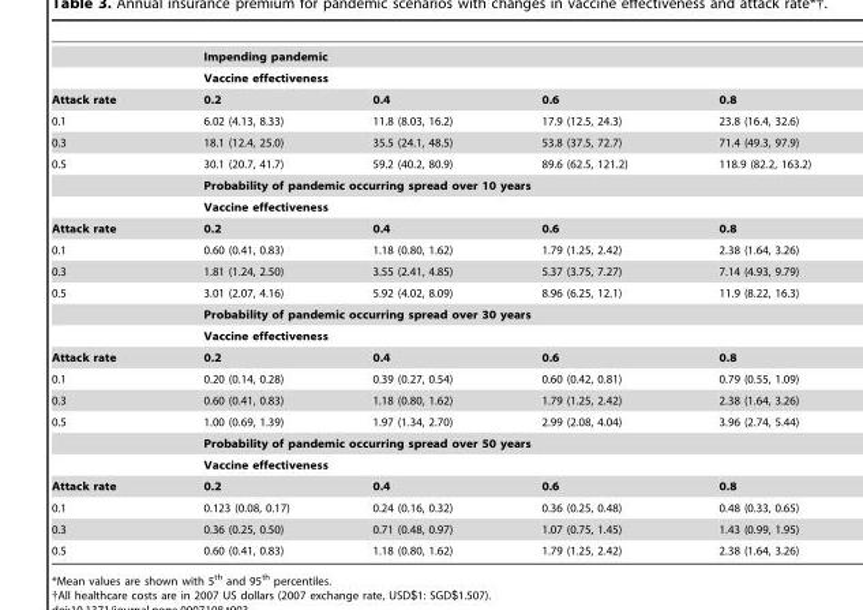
<table><thead><tr><td rowspan="3">Attack rate</td><td rowspan="2" colspan="4">Impending pandemic Vaccine effectiveness</td></tr><tr></tr><tr><td>0.2</td><td>0.4</td><td>0.6</td><td>0.8</td></tr></thead><tbody><tr><td>0.1</td><td>6.02 (4.13, 8.33)</td><td>11.8 (8.03, 16.2)</td><td>17.9 (12.5, 24.3)</td><td>23.8 (16.4, 32.6)</td></tr><tr><td>0.3</td><td>18.1 (12.4, 25.0)</td><td>35.5 (24.1, 48.5)</td><td>53.8 (37.5, 72.7)</td><td>71.4 (49.3, 97.9)</td></tr><tr><td rowspan="3">0.5</td><td>30.1 (20.7, 41.7)</td><td>59.2 (40.2, 80.9)</td><td>89.6 (62.5, 121.2)</td><td>118.9 (82.2, 163.2)</td></tr><tr><td colspan="4">Probability of pandemic occurring spread over 10 years</td></tr><tr><td colspan="4">Vaccine effectiveness</td></tr><tr><td>Attack rate</td><td>0.2</td><td>0.4</td><td>0.6</td><td>0.8</td></tr><tr><td>0.1</td><td>0.60 (0.41, 0.83)</td><td>1.18 (0.80, 1.62)</td><td>1.79 (1.25, 2.42)</td><td>2.38 (1.64, 3.26)</td></tr><tr><td>0.3</td><td>1.81 (1.24, 2.50)</td><td>3.55 (2.41, 4.85)</td><td>5.37 (3.75, 7.27)</td><td>7.14 (4.93, 9.79)</td></tr><tr><td rowspan="3">0.5</td><td>3.01 (2.07, 4.16)</td><td>5.92 (4.02, 8.09)</td><td>8.96 (6.25, 12.1)</td><td>11.9 (8.22, 16.3)</td></tr><tr><td colspan="4">Probability of pandemic occurring spread over 30 years</td></tr><tr><td colspan="4">Vaccine effectiveness</td></tr><tr><td>Attack rate</td><td>0.2</td><td>0.4</td><td>0.6</td><td>0.8</td></tr><tr><td>0.1</td><td>0.20 (0.14, 0.28)</td><td>0.39 (0.27, 0.54)</td><td>0.60 (0.42, 0.81)</td><td>0.79 (0.55, 1.09)</td></tr><tr><td>0.3</td><td>0.60 (0.41, 0.83)</td><td>1.18 (0.80, 1.62)</td><td>1.79 (1.25, 2.42)</td><td>2.38 (1.64, 3.26)</td></tr><tr><td rowspan="3">0.5</td><td>1.00 (0.69, 1.39)</td><td>1.97 (1.34, 2.70)</td><td>2.99 (2.08, 4.04)</td><td>3.96 (2.74, 5.44)</td></tr><tr><td colspan="4">Probability of pandemic occurring spread over 50 years</td></tr><tr><td colspan="4">Vaccine effectiveness</td></tr><tr><td>Attack rate</td><td>0.2</td><td>0.4</td><td>0.6</td><td>0.8</td></tr><tr><td>0.1</td><td>0.123 (0.08, 0.17)</td><td>0.24 (0.16, 0.32)</td><td>0.36 (0.25, 0.48)</td><td>0.48 (0.33, 0.65)</td></tr><tr><td>0.3</td><td>0.36 (0.25, 0.50)</td><td>0.71 (0.48, 0.97)</td><td>1.07 (0.75, 1.45)</td><td>1.43 (0.99, 1.95)</td></tr><tr><td>0.5</td><td>0.60 (0.41, 0.83)</td><td>1.18 (0.80, 1.62)</td><td>1.79 (1.25, 2.42)</td><td>2.38 (1.64, 3.26)</td></tr></tbody></table>